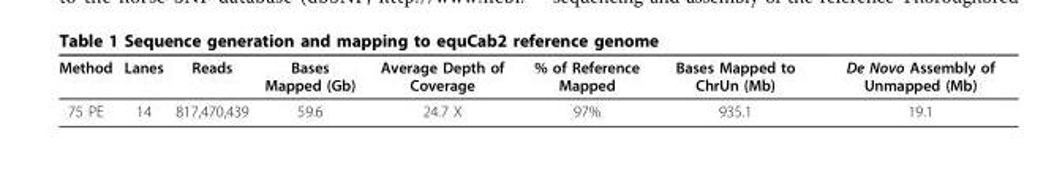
<table><thead><tr><td>Method</td><td>Lanes</td><td>Reads</td><td>Bases Mapped (Gb)</td><td>Average Depth of Coverage</td><td>% of Reference Mapped</td><td>Bases Mapped to ChrUn (Mb)</td><td>De Novo Assembly of Unmapped (Mb)</td></tr></thead><tbody><tr><td>75 PE</td><td>14</td><td>817,470,439</td><td>59.6</td><td>24.7 X</td><td>97%</td><td>935.1</td><td>19.1</td></tr></tbody></table>